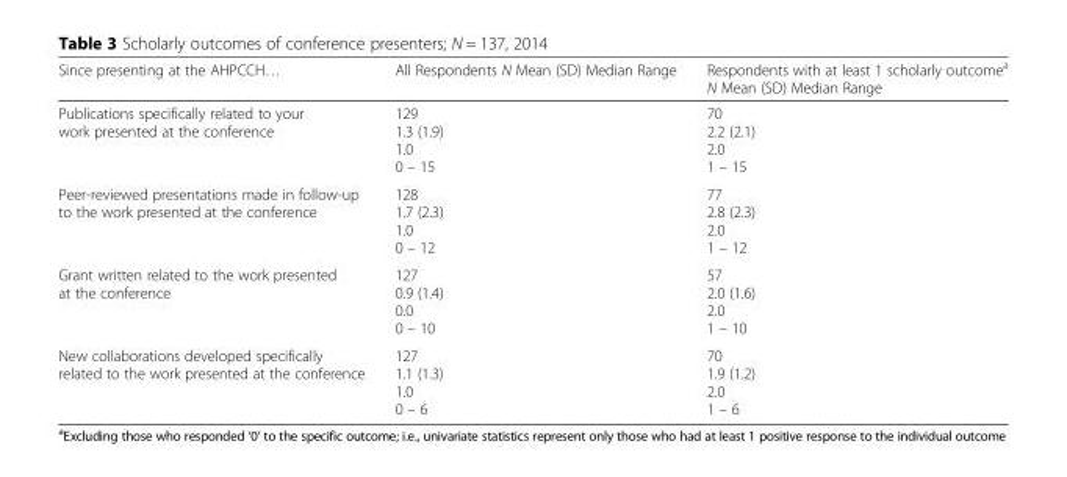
<table><thead><tr><td>Since presenting at the AHPCCH…</td><td>All Respondents N Mean (SD) Median Range</td><td>Respondents with at least 1 scholarly outcome<sup>a</sup> N Mean (SD) Median Range</td></tr></thead><tbody><tr><td>Publications specifically related to your work presented at the conference</td><td>129 1.3 (1.9) 1.0 0 – 15</td><td>70 2.2 (2.1) 2.0 1 – 15</td></tr><tr><td>Peer-reviewed presentations made in follow-up to the work presented at the conference</td><td>128 1.7 (2.3) 1.0 0 – 12</td><td>77 2.8 (2.3) 2.0 1 – 12</td></tr><tr><td>Grant written related to the work presented at the conference</td><td>127 0.9 (1.4) 0.0 0 – 10</td><td>57 2.0 (1.6) 2.0 1 – 10</td></tr><tr><td>New collaborations developed specifically related to the work presented at the conference</td><td>127 1.1 (1.3) 1.0 0 – 6</td><td>70 1.9 (1.2) 2.0 1 – 6</td></tr></tbody></table>